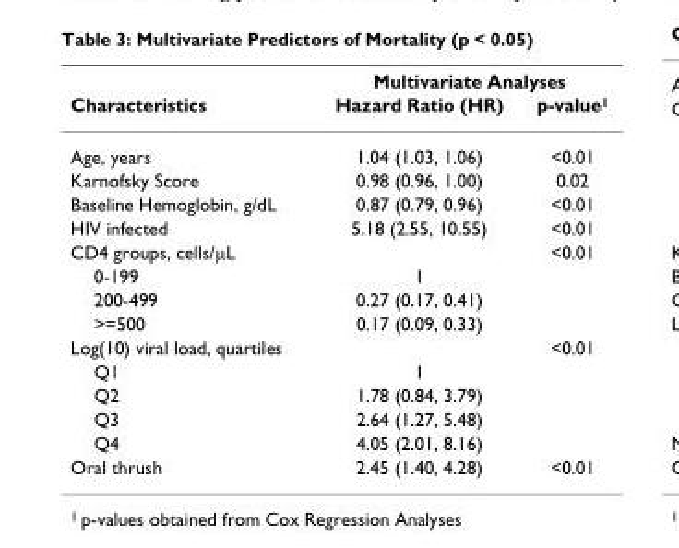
<table><thead><tr><td rowspan="2">Characteristics</td><td colspan="2">Multivariate Analyses</td></tr><tr><td>Hazard Ratio (HR)</td><td>p-value<sup>1</sup></td></tr></thead><tbody><tr><td>Age, years</td><td>1.04 (1.03, 1.06)</td><td>&lt;0.01</td></tr><tr><td>Karnofsky Score</td><td>0.98 (0.96, 1.00)</td><td>0.02</td></tr><tr><td>Baseline Hemoglobin, g/dL</td><td>0.87 (0.79, 0.96)</td><td>&lt;0.01</td></tr><tr><td>HIV infected</td><td>5.18 (2.55, 10.55)</td><td>&lt;0.01</td></tr><tr><td>CD4 groups, cells/μL</td><td></td><td>&lt;0.01</td></tr><tr><td>0-199</td><td>1</td><td></td></tr><tr><td>200-499</td><td>0.27 (0.17, 0.41)</td><td></td></tr><tr><td>&gt;=500</td><td>0.17 (0.09, 0.33)</td><td></td></tr><tr><td>Log(10) viral load, quartiles</td><td></td><td>&lt;0.01</td></tr><tr><td>Q1</td><td>1</td><td></td></tr><tr><td>Q2</td><td>1.78 (0.84, 3.79)</td><td></td></tr><tr><td>Q3</td><td>2.64 (1.27, 5.48)</td><td></td></tr><tr><td>Q4</td><td>4.05 (2.01, 8.16)</td><td></td></tr><tr><td>Oral thrush</td><td>2.45 (1.40, 4.28)</td><td>&lt;0.01</td></tr></tbody></table>